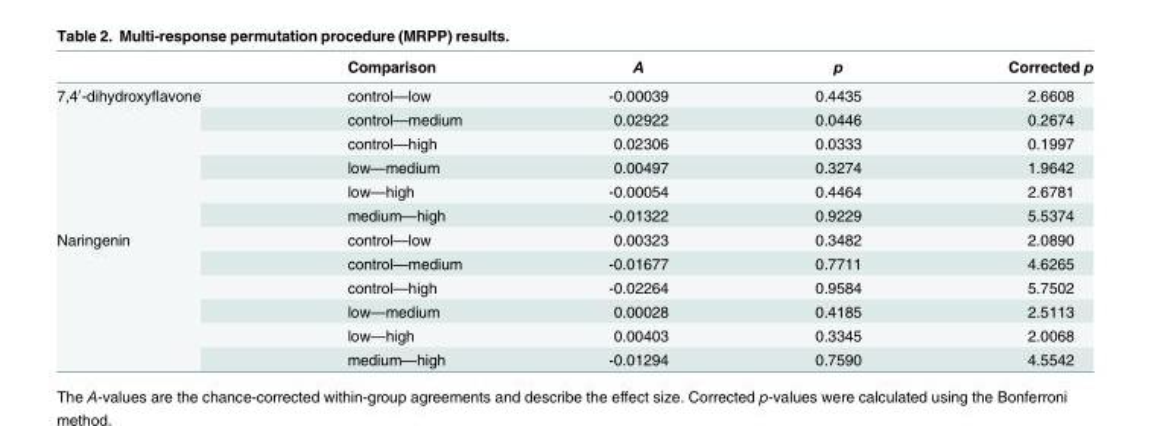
<table><thead><tr><td></td><td>Comparison</td><td>A</td><td>p</td><td>Corrected p</td></tr></thead><tbody><tr><td rowspan="6">7,4′-dihydroxyflavone</td><td>control—low</td><td>-0.00039</td><td>0.4435</td><td>2.6608</td></tr><tr><td>control—medium</td><td>0.02922</td><td>0.0446</td><td>0.2674</td></tr><tr><td>control—high</td><td>0.02306</td><td>0.0333</td><td>0.1997</td></tr><tr><td>low—medium</td><td>0.00497</td><td>0.3274</td><td>1.9642</td></tr><tr><td>low—high</td><td>-0.00054</td><td>0.4464</td><td>2.6781</td></tr><tr><td>medium—high</td><td>-0.01322</td><td>0.9229</td><td>5.5374</td></tr><tr><td rowspan="6">Naringenin</td><td>control—low</td><td>0.00323</td><td>0.3482</td><td>2.0890</td></tr><tr><td>control—medium</td><td>-0.01677</td><td>0.7711</td><td>4.6265</td></tr><tr><td>control—high</td><td>-0.02264</td><td>0.9584</td><td>5.7502</td></tr><tr><td>low—medium</td><td>0.00028</td><td>0.4185</td><td>2.5113</td></tr><tr><td>low—high</td><td>0.00403</td><td>0.3345</td><td>2.0068</td></tr><tr><td>medium—high</td><td>-0.01294</td><td>0.7590</td><td>4.5542</td></tr></tbody></table>